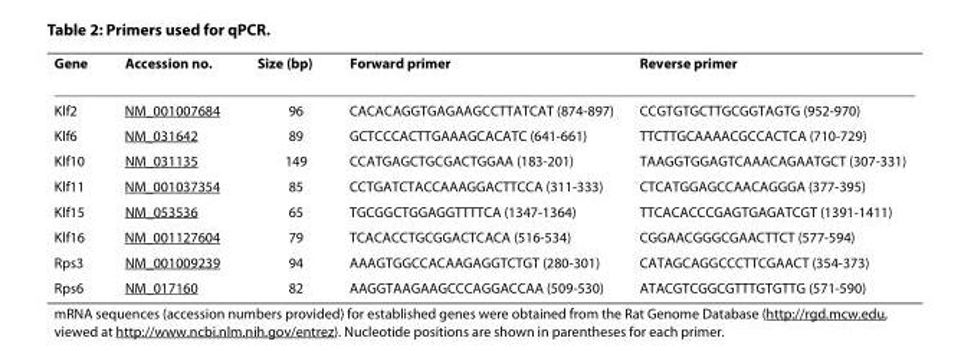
<table><thead><tr><td>Gene</td><td>Accession no.</td><td>Size (bp)</td><td>Forward primer</td><td>Reverse primer</td></tr></thead><tbody><tr><td>Klf2</td><td>NM_001007684</td><td>96</td><td>CACACAGGTGAGAAGCCTTATCAT (874-897)</td><td>CCGTGTGCTTGCGGTAGTG (952-970)</td></tr><tr><td>Klf6</td><td>NM_031642</td><td>89</td><td>GCTCCCACTTGAAAGCACATC (641-661)</td><td>TTCTTGCAAAACGCCACTCA (710-729)</td></tr><tr><td>Klf10</td><td>NM_031135</td><td>149</td><td>CCATGAGCTGCGACTGGAA (183-201)</td><td>TAAGGTGGAGTCAAACAGAATGCT (307-331)</td></tr><tr><td>Klf11</td><td>NM_001037354</td><td>85</td><td>CCTGATCTACCAAAGGACTTCCA (311-333)</td><td>CTCATGGAGCCAACAGGGA (377-395)</td></tr><tr><td>Klf15</td><td>NM_053536</td><td>65</td><td>TGCGGCTGGAGGTTTTCA (1347-1364)</td><td>TTCACACCCGAGTGAGATCGT (1391-1411)</td></tr><tr><td>Klf16</td><td>NM_001127604</td><td>79</td><td>TCACACCTGCGGACTCACA (516-534)</td><td>CGGAACGGGCGAACTTCT (577-594)</td></tr><tr><td>Rps3</td><td>NM_001009239</td><td>94</td><td>AAAGTGGCCACAAGAGGTCTGT (280-301)</td><td>CATAGCAGGCCCTTCGAACT (354-373)</td></tr><tr><td>Rps6</td><td>NM_017160</td><td>82</td><td>AAGGTAAGAAGCCCAGGACCAA (509-530)</td><td>ATACGTCGGCGTTTGTGTTG (571-590)</td></tr></tbody></table>